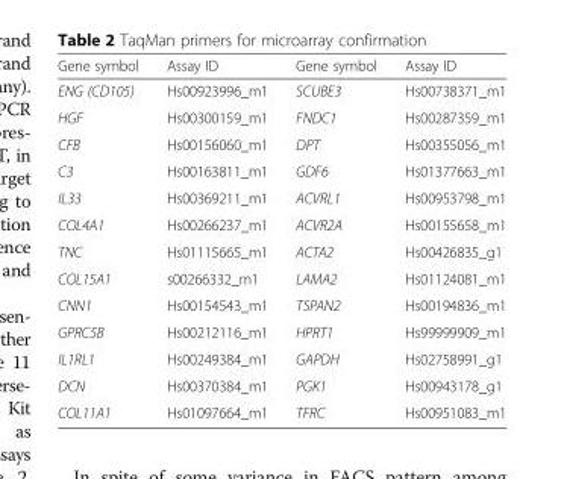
<table><thead><tr><td>Gene symbol</td><td>Assay ID</td><td>Gene symbol</td><td>Assay ID</td></tr></thead><tbody><tr><td>ENG (CD105)</td><td>Hs00923996_m1</td><td>SCUBE3</td><td>Hs00738371_m1</td></tr><tr><td>HGF</td><td>Hs00300159_m1</td><td>FNDC1</td><td>Hs00287359_m1</td></tr><tr><td>CFB</td><td>Hs00156060_m1</td><td>DPT</td><td>Hs00355056_m1</td></tr><tr><td>C3</td><td>Hs00163811_m1</td><td>GDF6</td><td>Hs01377663_m1</td></tr><tr><td>IL33</td><td>Hs00369211_m1</td><td>ACVRL1</td><td>Hs00953798_m1</td></tr><tr><td>COL4A1</td><td>Hs00266237_m1</td><td>ACVR2A</td><td>Hs00155658_m1</td></tr><tr><td>TNC</td><td>Hs01115665_m1</td><td>ACTA2</td><td>Hs00426835_g1</td></tr><tr><td>COL15A1</td><td>s00266332_m1</td><td>LAMA2</td><td>Hs01124081_m1</td></tr><tr><td>CNN1</td><td>Hs00154543_m1</td><td>TSPAN2</td><td>Hs00194836_m1</td></tr><tr><td>GPRC5B</td><td>Hs00212116_m1</td><td>HPRT1</td><td>Hs99999909_m1</td></tr><tr><td>IL1RL1</td><td>Hs00249384_m1</td><td>GAPDH</td><td>Hs02758991_g1</td></tr><tr><td>DCN</td><td>Hs00370384_m1</td><td>PGK1</td><td>Hs00943178_g1</td></tr><tr><td>COL11A1</td><td>Hs01097664_m1</td><td>TFRC</td><td>Hs00951083_m1</td></tr></tbody></table>